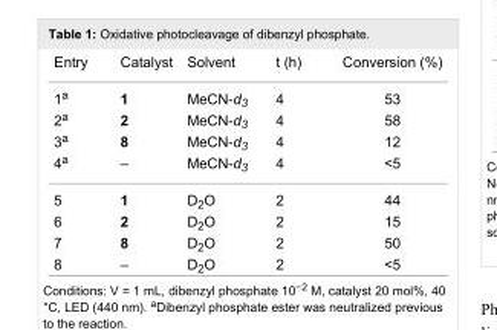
<table><tbody><tr><td>Entry</td><td>Catalyst</td><td>Solvent</td><td>t (h)</td><td>Conversion (%)</td></tr><tr><td>1<sup>a</sup></td><td>1</td><td>MeCN-d<sub>3</sub></td><td>4</td><td>53</td></tr><tr><td>2<sup>a</sup></td><td>2</td><td>MeCN-d<sub>3</sub></td><td>4</td><td>58</td></tr><tr><td>3<sup>a</sup></td><td>8</td><td>MeCN-d<sub>3</sub></td><td>4</td><td>12</td></tr><tr><td>4<sup>a</sup></td><td>–</td><td>MeCN-d<sub>3</sub></td><td>4</td><td>&lt;5</td></tr><tr><td>5</td><td>1</td><td>D<sub>2</sub>O</td><td>2</td><td>44</td></tr><tr><td>6</td><td>2</td><td>D<sub>2</sub>O</td><td>2</td><td>15</td></tr><tr><td>7</td><td>8</td><td>D<sub>2</sub>O</td><td>2</td><td>50</td></tr><tr><td>8</td><td>–</td><td>D<sub>2</sub>O</td><td>2</td><td>&lt;5</td></tr></tbody></table>